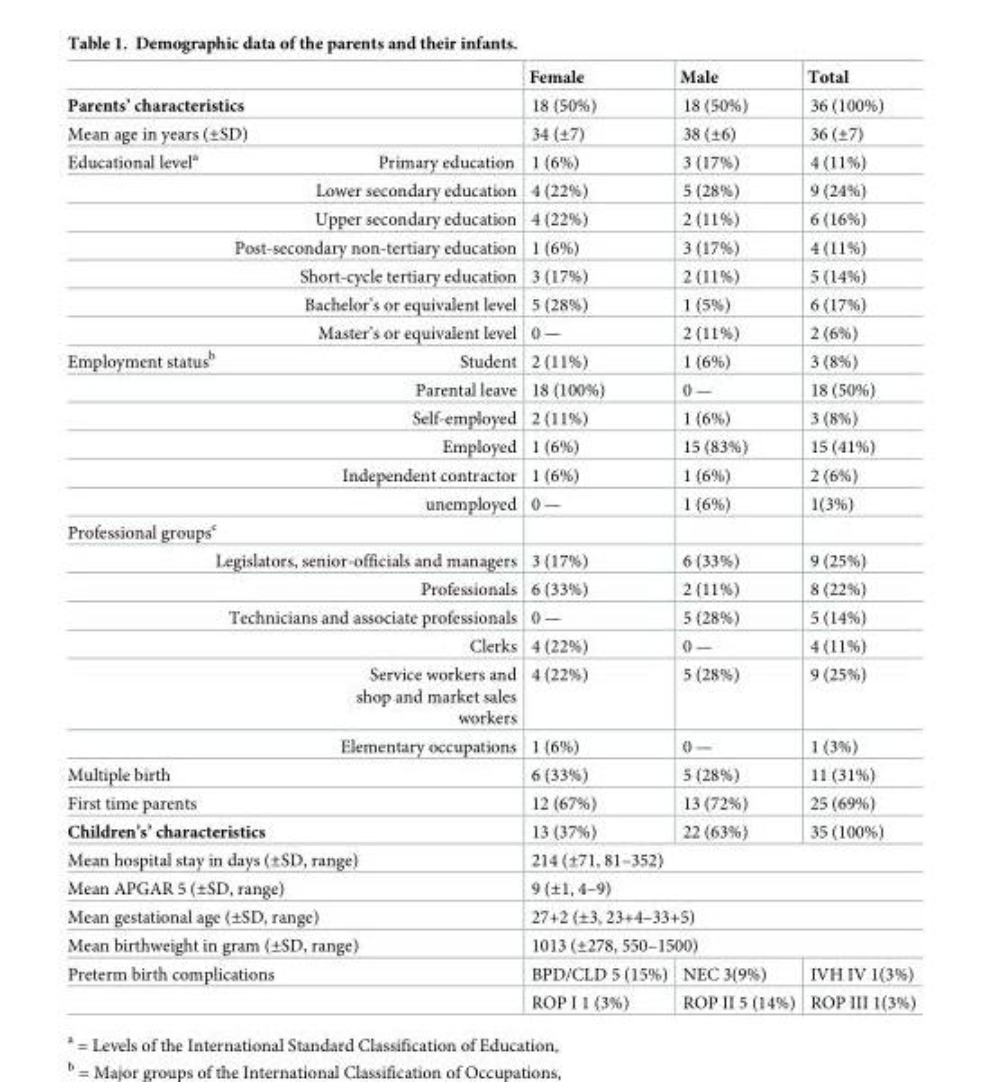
<table><thead><tr><td></td><td>Female</td><td>Male</td><td>Total</td></tr></thead><tbody><tr><td>Parents’ characteristics</td><td>18 (50%)</td><td>18 (50%)</td><td>36 (100%)</td></tr><tr><td>Mean age in years (±SD)</td><td>34 (±7)</td><td>38 (±6)</td><td>36 (±7)</td></tr><tr><td>Educational level<sup>a</sup> Primary education</td><td>1 (6%)</td><td>3 (17%)</td><td>4 (11%)</td></tr><tr><td>Lower secondary education</td><td>4 (22%)</td><td>5 (28%)</td><td>9 (24%)</td></tr><tr><td>Upper secondary education</td><td>4 (22%)</td><td>2 (11%)</td><td>6 (16%)</td></tr><tr><td>Post-secondary non-tertiary education</td><td>1 (6%)</td><td>3 (17%)</td><td>4 (11%)</td></tr><tr><td>Short-cycle tertiary education</td><td>3 (17%)</td><td>2 (11%)</td><td>5 (14%)</td></tr><tr><td>Bachelor’s or equivalent level</td><td>5 (28%)</td><td>1 (5%)</td><td>6 (17%)</td></tr><tr><td>Master’s or equivalent level</td><td>0 —</td><td>2 (11%)</td><td>2 (6%)</td></tr><tr><td>Employment status<sup>b</sup> Student</td><td>2 (11%)</td><td>1 (6%)</td><td>3 (8%)</td></tr><tr><td>Parental leave</td><td>18 (100%)</td><td>0 —</td><td>18 (50%)</td></tr><tr><td>Self-employed</td><td>2 (11%)</td><td>1 (6%)</td><td>3 (8%)</td></tr><tr><td>Employed</td><td>1 (6%)</td><td>15 (83%)</td><td>15 (41%)</td></tr><tr><td>Independent contractor</td><td>1 (6%)</td><td>1 (6%)</td><td>2 (6%)</td></tr><tr><td>unemployed</td><td>0 —</td><td>1 (6%)</td><td>1(3%)</td></tr><tr><td colspan="4">Professional groups<sup>c</sup></td></tr><tr><td>Legislators, senior-officials and managers</td><td>3 (17%)</td><td>6 (33%)</td><td>9 (25%)</td></tr><tr><td>Professionals</td><td>6 (33%)</td><td>2 (11%)</td><td>8 (22%)</td></tr><tr><td>Technicians and associate professionals</td><td>0 —</td><td>5 (28%)</td><td>5 (14%)</td></tr><tr><td>Clerks</td><td>4 (22%)</td><td>0 —</td><td>4 (11%)</td></tr><tr><td>Service workers and shop and market sales workers</td><td>4 (22%)</td><td>5 (28%)</td><td>9 (25%)</td></tr><tr><td>Elementary occupations</td><td>1 (6%)</td><td>0 —</td><td>1 (3%)</td></tr><tr><td>Multiple birth</td><td>6 (33%)</td><td>5 (28%)</td><td>11 (31%)</td></tr><tr><td>First time parents</td><td>12 (67%)</td><td>13 (72%)</td><td>25 (69%)</td></tr><tr><td>Children’s’ characteristics</td><td>13 (37%)</td><td>22 (63%)</td><td>35 (100%)</td></tr><tr><td>Mean hospital stay in days (±SD, range)</td><td colspan="3">214 (±71, 81–352)</td></tr><tr><td>Mean APGAR 5 (±SD, range)</td><td colspan="3">9 (±1, 4–9)</td></tr><tr><td>Mean gestational age (±SD, range)</td><td colspan="3">27+2 (±3, 23+4–33+5)</td></tr><tr><td>Mean birthweight in gram (±SD, range)</td><td colspan="3">1013 (±278, 550–1500)</td></tr><tr><td rowspan="2">Preterm birth complications</td><td>BPD/CLD 5 (15%)</td><td>NEC 3(9%)</td><td>IVH IV 1(3%)</td></tr><tr><td>ROP I 1 (3%)</td><td>ROP II 5 (14%)</td><td>ROP III 1(3%)</td></tr></tbody></table>